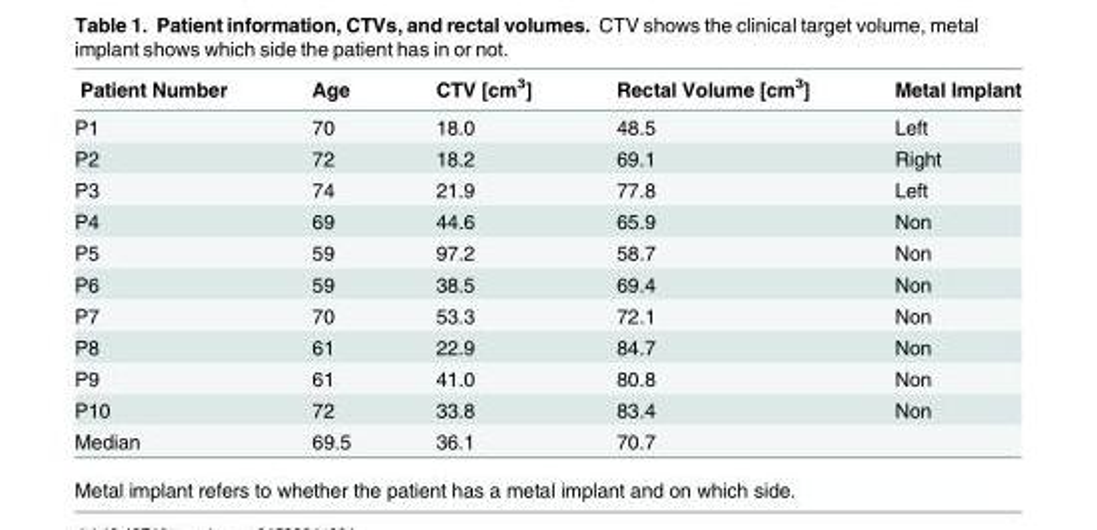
<table><thead><tr><td>Patient Number</td><td>Age</td><td>CTV [cm<sup>3</sup>]</td><td>Rectal Volume [cm<sup>3</sup>]</td><td>Metal Implant</td></tr></thead><tbody><tr><td>P1</td><td>70</td><td>18.0</td><td>48.5</td><td>Left</td></tr><tr><td>P2</td><td>72</td><td>18.2</td><td>69.1</td><td>Right</td></tr><tr><td>P3</td><td>74</td><td>21.9</td><td>77.8</td><td>Left</td></tr><tr><td>P4</td><td>69</td><td>44.6</td><td>65.9</td><td>Non</td></tr><tr><td>P5</td><td>59</td><td>97.2</td><td>58.7</td><td>Non</td></tr><tr><td>P6</td><td>59</td><td>38.5</td><td>69.4</td><td>Non</td></tr><tr><td>P7</td><td>70</td><td>53.3</td><td>72.1</td><td>Non</td></tr><tr><td>P8</td><td>61</td><td>22.9</td><td>84.7</td><td>Non</td></tr><tr><td>P9</td><td>61</td><td>41.0</td><td>80.8</td><td>Non</td></tr><tr><td>P10</td><td>72</td><td>33.8</td><td>83.4</td><td>Non</td></tr><tr><td>Median</td><td>69.5</td><td>36.1</td><td>70.7</td><td></td></tr></tbody></table>